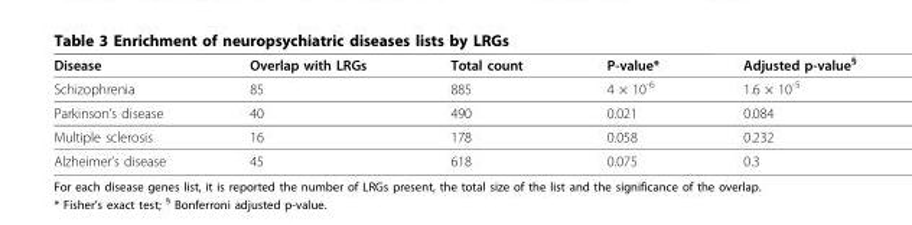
<table><thead><tr><td>Disease</td><td>Overlap with LRGs</td><td>Total count</td><td>P-value*</td><td>Adjusted p-value<sup>§</sup></td></tr></thead><tbody><tr><td>Schizophrenia</td><td>85</td><td>885</td><td>4 × 10<sup>-6</sup></td><td>1.6 × 10<sup>-5</sup></td></tr><tr><td>Parkinson’s disease</td><td>40</td><td>490</td><td>0.021</td><td>0.084</td></tr><tr><td>Multiple sclerosis</td><td>16</td><td>178</td><td>0.058</td><td>0.232</td></tr><tr><td>Alzheimer’s disease</td><td>45</td><td>618</td><td>0.075</td><td>0.3</td></tr></tbody></table>